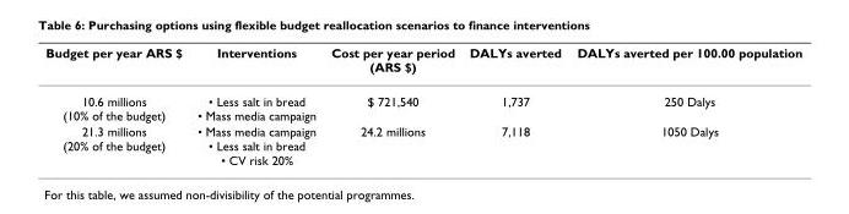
<table><thead><tr><td>Budget per year ARS $</td><td>Interventions</td><td>Cost per year period (ARS $)</td><td>DALYs averted</td><td>DALYs averted per 100.00 population</td></tr></thead><tbody><tr><td>10.6 millions (10% of the budget)</td><td>• Less salt in bread • Mass media campaign</td><td>$ 721,540</td><td>1,737</td><td>250 Dalys</td></tr><tr><td>21.3 millions (20% of the budget)</td><td>• Mass media campaign • Less salt in bread • CV risk 20%</td><td>24.2 millions</td><td>7,118</td><td>1050 Dalys</td></tr></tbody></table>